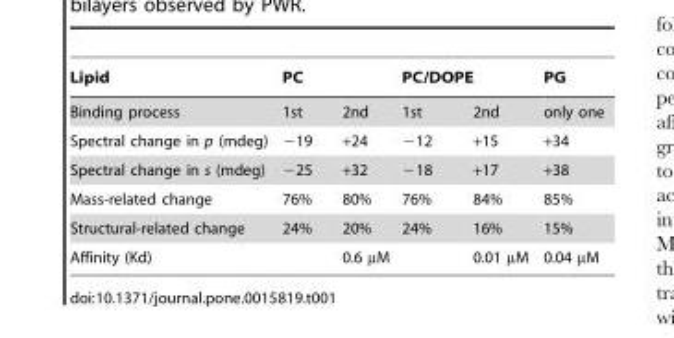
<table><thead><tr><td rowspan="2">Lipid Binding process</td><td colspan="2">PC</td><td colspan="2">PC/DOPE</td><td rowspan="2">PG only one</td></tr><tr><td>1st</td><td>2nd</td><td>1st</td><td>2nd</td></tr></thead><tbody><tr><td>Spectral change in p (mdeg)</td><td>−19</td><td>+24</td><td>−12</td><td>+15</td><td>+34</td></tr><tr><td>Spectral change in s (mdeg)</td><td>−25</td><td>+32</td><td>−18</td><td>+17</td><td>+38</td></tr><tr><td>Mass-related change</td><td>76%</td><td>80%</td><td>76%</td><td>84%</td><td>85%</td></tr><tr><td>Structural-related change</td><td>24%</td><td>20%</td><td>24%</td><td>16%</td><td>15%</td></tr><tr><td>Affinity (Kd)</td><td></td><td>0.6 µM</td><td></td><td>0.01 µM</td><td>0.04 µM</td></tr></tbody></table>